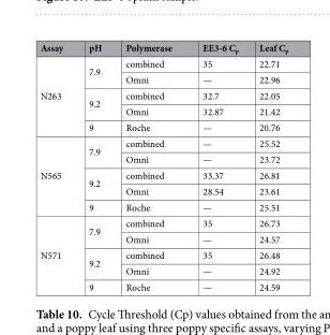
<table><thead><tr><td>Assay</td><td>pH</td><td>Polymerase</td><td>EE3-6 C<sub>p</sub></td><td>Leaf C<sub>p</sub></td></tr></thead><tbody><tr><td rowspan="5">N263</td><td rowspan="2">7.9</td><td>combined</td><td>35</td><td>22.71</td></tr><tr><td>Omni</td><td>—</td><td>22.96</td></tr><tr><td rowspan="2">9.2</td><td>combined</td><td>32.7</td><td>22.05</td></tr><tr><td>Omni</td><td>32.87</td><td>21.42</td></tr><tr><td>9</td><td>Roche</td><td>—</td><td>20.76</td></tr><tr><td rowspan="5">N565</td><td rowspan="2">7.9</td><td>combined</td><td>—</td><td>25.52</td></tr><tr><td>Omni</td><td>—</td><td>23.72</td></tr><tr><td rowspan="2">9.2</td><td>combined</td><td>33.37</td><td>26.81</td></tr><tr><td>Omni</td><td>28.54</td><td>23.61</td></tr><tr><td>9</td><td>Roche</td><td>—</td><td>25.51</td></tr><tr><td rowspan="5">N571</td><td rowspan="2">7.9</td><td>combined</td><td>35</td><td>26.73</td></tr><tr><td>Omni</td><td>—</td><td>24.57</td></tr><tr><td rowspan="2">9.2</td><td>combined</td><td>35</td><td>26.48</td></tr><tr><td>Omni</td><td>—</td><td>24.92</td></tr><tr><td>9</td><td>Roche</td><td>—</td><td>24.59</td></tr></tbody></table>